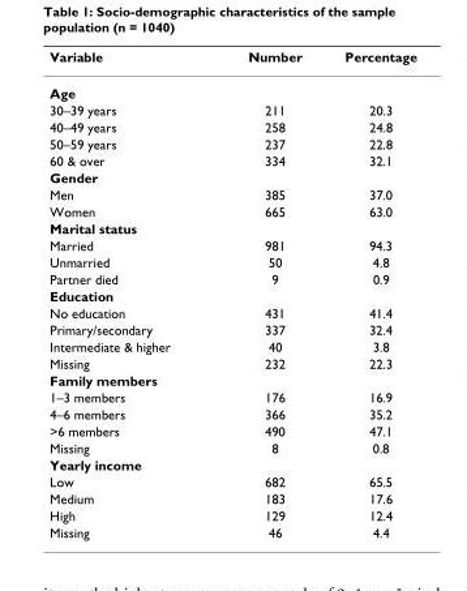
<table><thead><tr><td>Variable</td><td>Number</td><td>Percentage</td></tr></thead><tbody><tr><td colspan="3">Age</td></tr><tr><td>30–39 years</td><td>211</td><td>20.3</td></tr><tr><td>40–49 years</td><td>258</td><td>24.8</td></tr><tr><td>50–59 years</td><td>237</td><td>22.8</td></tr><tr><td>60 &amp; over</td><td>334</td><td>32.1</td></tr><tr><td colspan="3">Gender</td></tr><tr><td>Men</td><td>385</td><td>37.0</td></tr><tr><td>Women</td><td>665</td><td>63.0</td></tr><tr><td colspan="3">Marital status</td></tr><tr><td>Married</td><td>981</td><td>94.3</td></tr><tr><td>Unmarried</td><td>50</td><td>4.8</td></tr><tr><td>Partner died</td><td>9</td><td>0.9</td></tr><tr><td colspan="3">Education</td></tr><tr><td>No education</td><td>431</td><td>41.4</td></tr><tr><td>Primary/secondary</td><td>337</td><td>32.4</td></tr><tr><td>Intermediate &amp; higher</td><td>40</td><td>3.8</td></tr><tr><td>Missing</td><td>232</td><td>22.3</td></tr><tr><td colspan="3">Family members</td></tr><tr><td>1–3 members</td><td>176</td><td>16.9</td></tr><tr><td>4–6 members</td><td>366</td><td>35.2</td></tr><tr><td>&gt;6 members</td><td>490</td><td>47.1</td></tr><tr><td>Missing</td><td>8</td><td>0.8</td></tr><tr><td colspan="3">Yearly income</td></tr><tr><td>Low</td><td>682</td><td>65.5</td></tr><tr><td>Medium</td><td>183</td><td>17.6</td></tr><tr><td>High</td><td>129</td><td>12.4</td></tr><tr><td>Missing</td><td>46</td><td>4.4</td></tr></tbody></table>